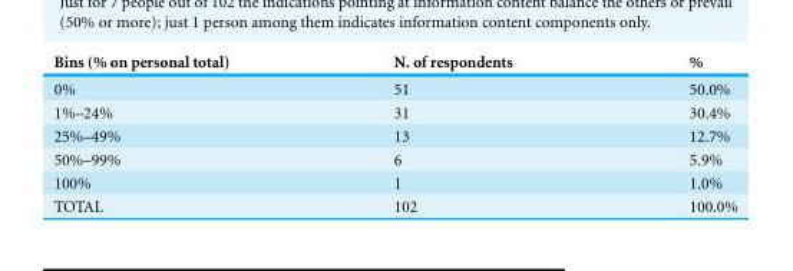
<table><thead><tr><td>Bins (% on personal total)</td><td>N. of respondents</td><td>%</td></tr></thead><tbody><tr><td>0%</td><td>51</td><td>50.0%</td></tr><tr><td>1%–24%</td><td>31</td><td>30.4%</td></tr><tr><td>25%–49%</td><td>13</td><td>12.7%</td></tr><tr><td>50%–99%</td><td>6</td><td>5.9%</td></tr><tr><td>100%</td><td>1</td><td>1.0%</td></tr><tr><td>TOTAL</td><td>102</td><td>100.0%</td></tr></tbody></table>